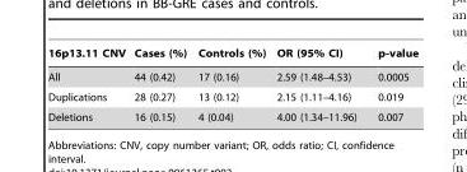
<table><thead><tr><td>16p13.11 CNV</td><td>Cases (%)</td><td>Controls (%)</td><td>OR (95% CI)</td><td>p-value</td></tr></thead><tbody><tr><td>All</td><td>44 (0.42)</td><td>17 (0.16)</td><td>2.59 (1.48–4.53)</td><td>0.0005</td></tr><tr><td>Duplications</td><td>28 (0.27)</td><td>13 (0.12)</td><td>2.15 (1.11–4.16)</td><td>0.019</td></tr><tr><td>Deletions</td><td>16 (0.15)</td><td>4 (0.04)</td><td>4.00 (1.34–11.96)</td><td>0.007</td></tr></tbody></table>